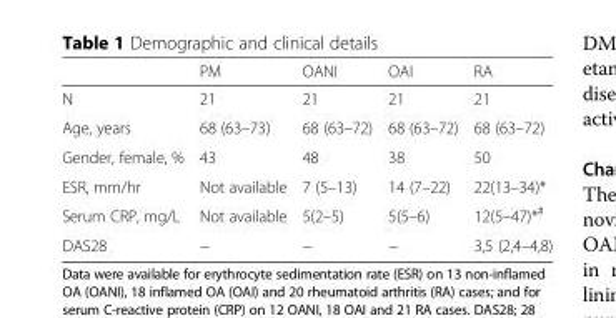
<table><thead><tr><td></td><td>PM</td><td>OANI</td><td>OAI</td><td>RA</td></tr></thead><tbody><tr><td>N</td><td>21</td><td>21</td><td>21</td><td>21</td></tr><tr><td>Age, years</td><td>68 (63–73)</td><td>68 (63–72)</td><td>68 (63–72)</td><td>68 (63–72)</td></tr><tr><td>Gender, female, %</td><td>43</td><td>48</td><td>38</td><td>50</td></tr><tr><td>ESR, mm/hr</td><td>Not available</td><td>7 (5–13)</td><td>14 (7–22)</td><td>22(13–34)*</td></tr><tr><td>Serum CRP, mg/L</td><td>Not available</td><td>5(2–5)</td><td>5(5–6)</td><td>12(5–47)*<sup>#</sup></td></tr><tr><td>DAS28</td><td>−</td><td>−</td><td>−</td><td>3,5 (2,4–4,8)</td></tr></tbody></table>